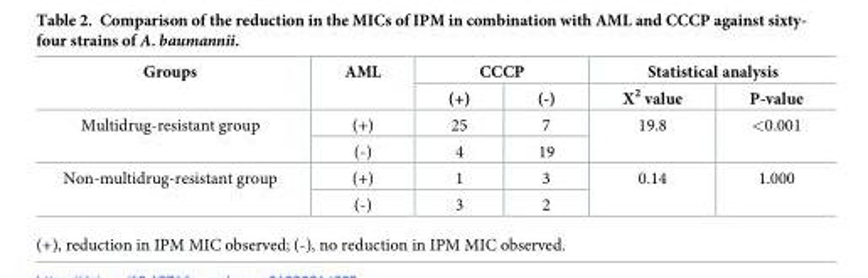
<table><thead><tr><td rowspan="2">Groups</td><td rowspan="2">AML</td><td colspan="2">CCCP</td><td colspan="2">Statistical analysis</td></tr><tr><td>(+)</td><td>(-)</td><td>X<sup>2</sup> value</td><td>P-value</td></tr></thead><tbody><tr><td rowspan="2">Multidrug-resistant group</td><td>(+)</td><td>25</td><td>7</td><td rowspan="2">19.8</td><td rowspan="2">&lt;0.001</td></tr><tr><td>(-)</td><td>4</td><td>19</td></tr><tr><td rowspan="2">Non-multidrug-resistant group</td><td>(+)</td><td>1</td><td>3</td><td rowspan="2">0.14</td><td rowspan="2">1.000</td></tr><tr><td>(-)</td><td>3</td><td>2</td></tr></tbody></table>